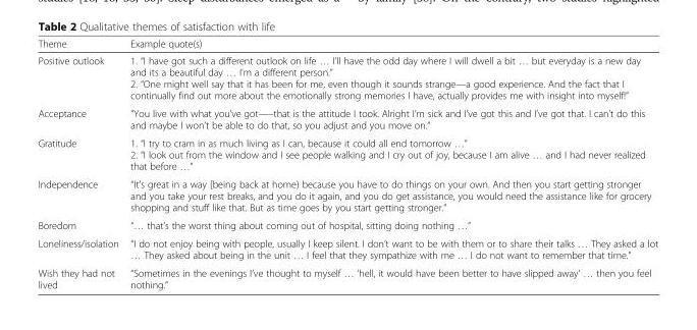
<table><thead><tr><td>Theme</td><td>Example quote(s)</td></tr></thead><tbody><tr><td>Positive outlook</td><td>1. “I have got such a different outlook on life … I’ll have the odd day where I will dwell a bit … but everyday is a new day and its a beautiful day … I’m a different person.” 2. “One might well say that it has been for me, even though it sounds strange—a good experience. And the fact that I continually find out more about the emotionally strong memories I have, actually provides me with insight into myself!”</td></tr><tr><td>Acceptance</td><td>“You live with what you’ve got—–that is the attitude I took. Alright I’m sick and I’ve got this and I’ve got that. I can’t do this and maybe I won’t be able to do that, so you adjust and you move on.”</td></tr><tr><td>Gratitude</td><td>1. “I try to cram in as much living as I can, because it could all end tomorrow …” 2. “I look out from the window and I see people walking and I cry out of joy, because I am alive … and I had never realized that before …”</td></tr><tr><td>Independence</td><td>“It&#x27;s great in a way [being back at home) because you have to do things on your own. And then you start getting stronger and you take your rest breaks, and you do it again, and you do get assistance, you would need the assistance like for grocery shopping and stuff like that. But as time goes by you start getting stronger.”</td></tr><tr><td>Boredom</td><td>“… that’s the worst thing about coming out of hospital, sitting doing nothing …”</td></tr><tr><td>Loneliness/isolation</td><td>“I do not enjoy being with people, usually I keep silent. I don’t want to be with them or to share their talks … They asked a lot … They asked about being in the unit … I feel that they sympathize with me … I do not want to remember that time.”</td></tr><tr><td>Wish they had not lived</td><td>“Sometimes in the evenings I’ve thought to myself … ‘hell, it would have been better to have slipped away’ … then you feel nothing.”</td></tr></tbody></table>